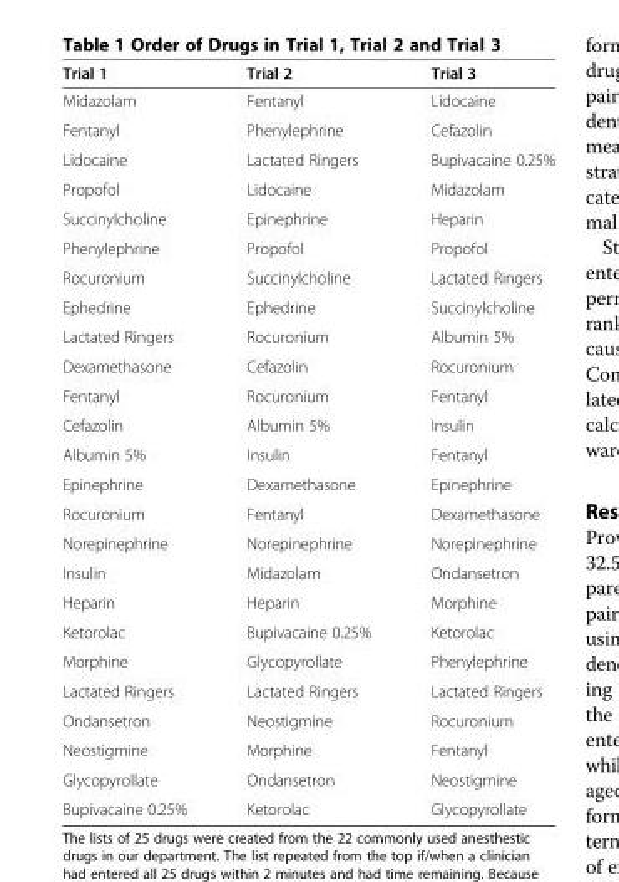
<table><thead><tr><td>Trial 1</td><td>Trial 2</td><td>Trial 3</td></tr></thead><tbody><tr><td>Midazolam</td><td>Fentanyl</td><td>Lidocaine</td></tr><tr><td>Fentanyl</td><td>Phenylephrine</td><td>Cefazolin</td></tr><tr><td>Lidocaine</td><td>Lactated Ringers</td><td>Bupivacaine 0.25%</td></tr><tr><td>Propofol</td><td>Lidocaine</td><td>Midazolam</td></tr><tr><td>Succinylcholine</td><td>Epinephrine</td><td>Heparin</td></tr><tr><td>Phenylephrine</td><td>Propofol</td><td>Propofol</td></tr><tr><td>Rocuronium</td><td>Succinylcholine</td><td>Lactated Ringers</td></tr><tr><td>Ephedrine</td><td>Ephedrine</td><td>Succinylcholine</td></tr><tr><td>Lactated Ringers</td><td>Rocuronium</td><td>Albumin 5%</td></tr><tr><td>Dexamethasone</td><td>Cefazolin</td><td>Rocuronium</td></tr><tr><td>Fentanyl</td><td>Rocuronium</td><td>Fentanyl</td></tr><tr><td>Cefazolin</td><td>Albumin 5%</td><td>Insulin</td></tr><tr><td>Albumin 5%</td><td>Insulin</td><td>Fentanyl</td></tr><tr><td>Epinephrine</td><td>Dexamethasone</td><td>Epinephrine</td></tr><tr><td>Rocuronium</td><td>Fentanyl</td><td>Dexamethasone</td></tr><tr><td>Norepinephrine</td><td>Norepinephrine</td><td>Norepinephrine</td></tr><tr><td>Insulin</td><td>Midazolam</td><td>Ondansetron</td></tr><tr><td>Heparin</td><td>Heparin</td><td>Morphine</td></tr><tr><td>Ketorolac</td><td>Bupivacaine 0.25%</td><td>Ketorolac</td></tr><tr><td>Morphine</td><td>Glycopyrollate</td><td>Phenylephrine</td></tr><tr><td>Lactated Ringers</td><td>Lactated Ringers</td><td>Lactated Ringers</td></tr><tr><td>Ondansetron</td><td>Neostigmine</td><td>Rocuronium</td></tr><tr><td>Neostigmine</td><td>Morphine</td><td>Fentanyl</td></tr><tr><td>Glycopyrollate</td><td>Ondansetron</td><td>Neostigmine</td></tr><tr><td>Bupivacaine 0.25%</td><td>Ketorolac</td><td>Glycopyrollate</td></tr></tbody></table>